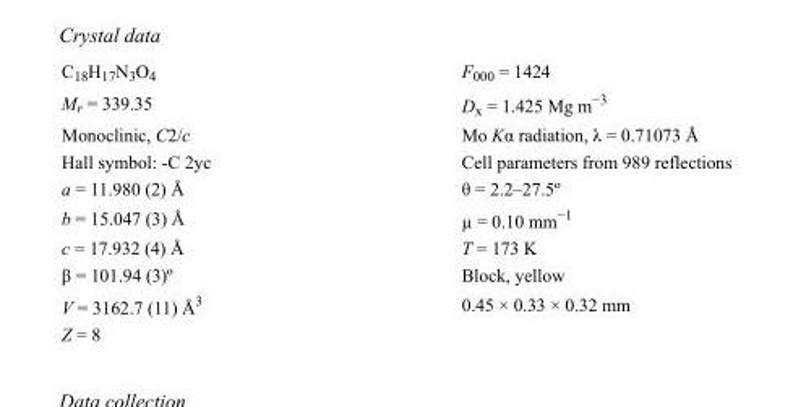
<table><tbody><tr><td>C<sub>18</sub>H<sub>17</sub>N<sub>3</sub>O<sub>4</sub></td><td>F000 = 1424</td></tr><tr><td>M<sub>r</sub> = 339.35</td><td>D<sub>x</sub> = 1.425 Mg m<sup>−3</sup></td></tr><tr><td>Monoclinic, C2/c</td><td>Mo Kα radiation, λ = 0.71073 Å</td></tr><tr><td>Hall symbol: -C 2yc</td><td>Cell parameters from 989 reflections</td></tr><tr><td>a = 11.980 (2) Å</td><td>θ = 2.2–27.5º</td></tr><tr><td>b = 15.047 (3) Å</td><td>µ = 0.10 mm<sup>−1</sup></td></tr><tr><td>c = 17.932 (4) Å</td><td>T = 173 K</td></tr><tr><td>β = 101.94 (3)º</td><td>Block, yellow</td></tr><tr><td>V = 3162.7 (11) Å<sup>3</sup></td><td>0.45 × 0.33 × 0.32 mm</td></tr><tr><td>Z = 8</td><td></td></tr></tbody></table>